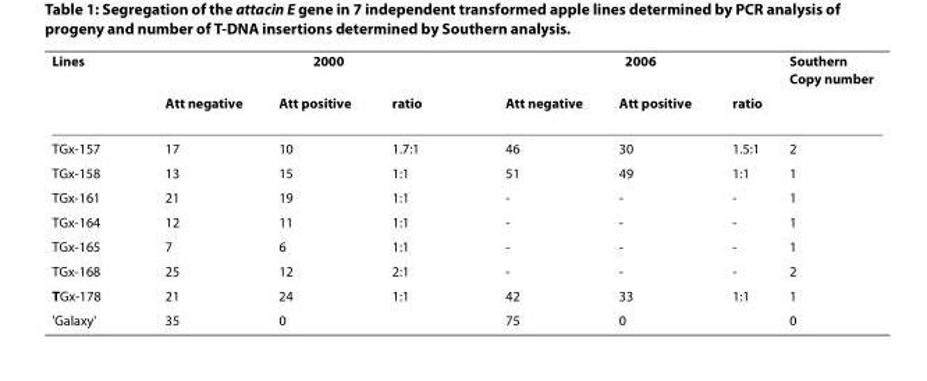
<table><thead><tr><td rowspan="2">Lines</td><td colspan="3">2000</td><td colspan="3">2006</td><td rowspan="2">Southern Copy number</td></tr><tr><td>Att negative</td><td>Att positive</td><td>ratio</td><td>Att negative</td><td>Att positive</td><td>ratio</td></tr></thead><tbody><tr><td>TGx-157</td><td>17</td><td>10</td><td>1.7:1</td><td>46</td><td>30</td><td>1.5:1</td><td>2</td></tr><tr><td>TGx-158</td><td>13</td><td>15</td><td>1:1</td><td>51</td><td>49</td><td>1:1</td><td>1</td></tr><tr><td>TGx-161</td><td>21</td><td>19</td><td>1:1</td><td>-</td><td>-</td><td>-</td><td>1</td></tr><tr><td>TGx-164</td><td>12</td><td>11</td><td>1:1</td><td>-</td><td>-</td><td>-</td><td>1</td></tr><tr><td>TGx-165</td><td>7</td><td>6</td><td>1:1</td><td>-</td><td>-</td><td>-</td><td>1</td></tr><tr><td>TGx-168</td><td>25</td><td>12</td><td>2:1</td><td>-</td><td>-</td><td>-</td><td>2</td></tr><tr><td>TGx-178</td><td>21</td><td>24</td><td>1:1</td><td>42</td><td>33</td><td>1:1</td><td>1</td></tr><tr><td>&#x27;Galaxy&#x27;</td><td>35</td><td>0</td><td></td><td>75</td><td>0</td><td></td><td>0</td></tr></tbody></table>